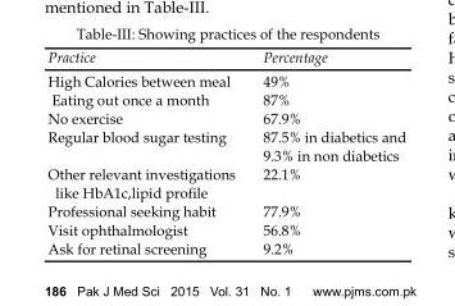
<table><thead><tr><td>Practice</td><td>Percentage</td></tr></thead><tbody><tr><td>High Calories between meal</td><td>49%</td></tr><tr><td>Eating out once a month</td><td>87%</td></tr><tr><td>No exercise</td><td>67.9%</td></tr><tr><td>Regular blood sugar testing</td><td>87.5% in diabetics and 9.3% in non diabetics</td></tr><tr><td>Other relevant investigations like HbA1c,lipid profile</td><td>22.1%</td></tr><tr><td>Professional seeking habit</td><td>77.9%</td></tr><tr><td>Visit ophthalmologist</td><td>56.8%</td></tr><tr><td>Ask for retinal screening</td><td>9.2%</td></tr></tbody></table>